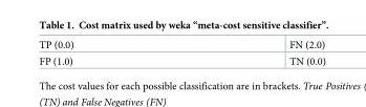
<table><tbody><tr><td>TP (0.0)</td><td>FN (2.0)</td></tr><tr><td>FP (1.0)</td><td>TN (0.0)</td></tr></tbody></table>